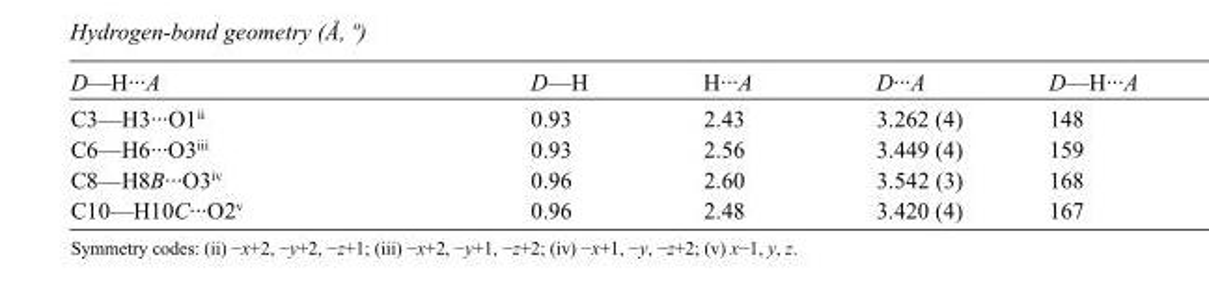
<table><tbody><tr><td>D—H···A</td><td>D—H</td><td>H···A</td><td>D···A</td><td>D—H···A</td></tr><tr><td>C3—H3···O1<sup>ii</sup></td><td>0.93</td><td>2.43</td><td>3.262 (4)</td><td>148</td></tr><tr><td>C6—H6···O3<sup>iii</sup></td><td>0.93</td><td>2.56</td><td>3.449 (4)</td><td>159</td></tr><tr><td>C8—H8B···O3<sup>iv</sup></td><td>0.96</td><td>2.60</td><td>3.542 (3)</td><td>168</td></tr><tr><td>C10—H10C···O2<sup>v</sup></td><td>0.96</td><td>2.48</td><td>3.420 (4)</td><td>167</td></tr></tbody></table>